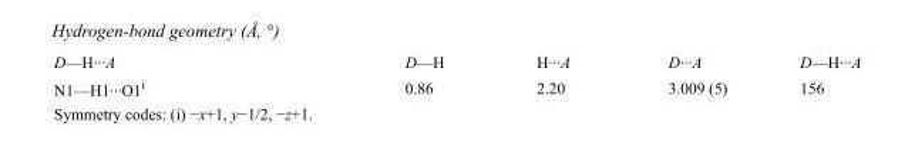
<table><tbody><tr><td>D—H···A</td><td>D—H</td><td>H···A</td><td>D···A</td><td>D—H···A</td></tr><tr><td>N1—H1···O1<sup>i</sup></td><td>0.86</td><td>2.20</td><td>3.009 (5)</td><td>156</td></tr></tbody></table>